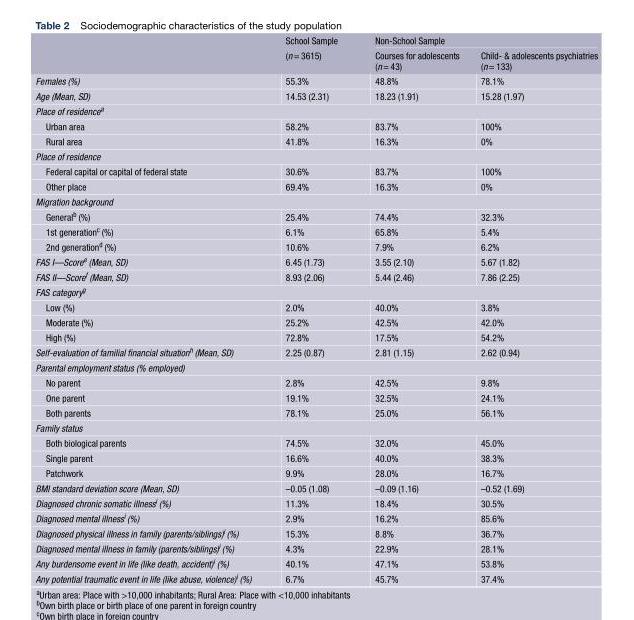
<table><thead><tr><td rowspan="2"></td><td rowspan="2">School Sample (n= 3615)</td><td colspan="2">Non-School Sample</td></tr><tr><td>Courses for adolescents (n= 43)</td><td>Child- &amp; adolescents psychiatries (n= 133)</td></tr></thead><tbody><tr><td>Females (%)</td><td>55.3%</td><td>48.8%</td><td>78.1%</td></tr><tr><td>Age (Mean, SD)</td><td>14.53 (2.31)</td><td>18.23 (1.91)</td><td>15.28 (1.97)</td></tr><tr><td colspan="4">Place of residence<sup>a</sup></td></tr><tr><td>Urban area</td><td>58.2%</td><td>83.7%</td><td>100%</td></tr><tr><td>Rural area</td><td>41.8%</td><td>16.3%</td><td>0%</td></tr><tr><td colspan="4">Place of residence</td></tr><tr><td>Federal capital or capital of federal state</td><td>30.6%</td><td>83.7%</td><td>100%</td></tr><tr><td>Other place</td><td>69.4%</td><td>16.3%</td><td>0%</td></tr><tr><td colspan="4">Migration background</td></tr><tr><td>General<sup>b</sup> (%)</td><td>25.4%</td><td>74.4%</td><td>32.3%</td></tr><tr><td>1st generation<sup>c</sup> (%)</td><td>6.1%</td><td>65.8%</td><td>5.4%</td></tr><tr><td>2nd generation<sup>d</sup> (%)</td><td>10.6%</td><td>7.9%</td><td>6.2%</td></tr><tr><td>FAS I—Score<sup>e</sup> (Mean, SD)</td><td>6.45 (1.73)</td><td>3.55 (2.10)</td><td>5.67 (1.82)</td></tr><tr><td>FAS II—Score<sup>f</sup> (Mean, SD)</td><td>8.93 (2.06)</td><td>5.44 (2.46)</td><td>7.86 (2.25)</td></tr><tr><td colspan="4">FAS category<sup>g</sup></td></tr><tr><td>Low (%)</td><td>2.0%</td><td>40.0%</td><td>3.8%</td></tr><tr><td>Moderate (%)</td><td>25.2%</td><td>42.5%</td><td>42.0%</td></tr><tr><td>High (%)</td><td>72.8%</td><td>17.5%</td><td>54.2%</td></tr><tr><td>Self-evaluation of familial financial situation<sup>h</sup> (Mean, SD)</td><td>2.25 (0.87)</td><td>2.81 (1.15)</td><td>2.62 (0.94)</td></tr><tr><td colspan="4">Parental employment status (% employed)</td></tr><tr><td>No parent</td><td>2.8%</td><td>42.5%</td><td>9.8%</td></tr><tr><td>One parent</td><td>19.1%</td><td>32.5%</td><td>24.1%</td></tr><tr><td>Both parents</td><td>78.1%</td><td>25.0%</td><td>56.1%</td></tr><tr><td colspan="4">Family status</td></tr><tr><td>Both biological parents</td><td>74.5%</td><td>32.0%</td><td>45.0%</td></tr><tr><td>Single parent</td><td>16.6%</td><td>40.0%</td><td>38.3%</td></tr><tr><td>Patchwork</td><td>9.9%</td><td>28.0%</td><td>16.7%</td></tr><tr><td>BMI standard deviation score (Mean, SD)</td><td>–0.05 (1.08)</td><td>–0.09 (1.16)</td><td>–0.52 (1.69)</td></tr><tr><td>Diagnosed chronic somatic illness<sup>i</sup> (%)</td><td>11.3%</td><td>18.4%</td><td>30.5%</td></tr><tr><td>Diagnosed mental illness<sup>i</sup> (%)</td><td>2.9%</td><td>16.2%</td><td>85.6%</td></tr><tr><td>Diagnosed physical illness in family (parents/siblings)<sup>i</sup> (%)</td><td>15.3%</td><td>8.8%</td><td>36.7%</td></tr><tr><td>Diagnosed mental illness in family (parents/siblings)<sup>i</sup> (%)</td><td>4.3%</td><td>22.9%</td><td>28.1%</td></tr><tr><td>Any burdensome event in life (like death, accident)<sup>i</sup> (%)</td><td>40.1%</td><td>47.1%</td><td>53.8%</td></tr><tr><td>Any potential traumatic event in life (like abuse, violence)<sup>i</sup> (%)</td><td>6.7%</td><td>45.7%</td><td>37.4%</td></tr></tbody></table>